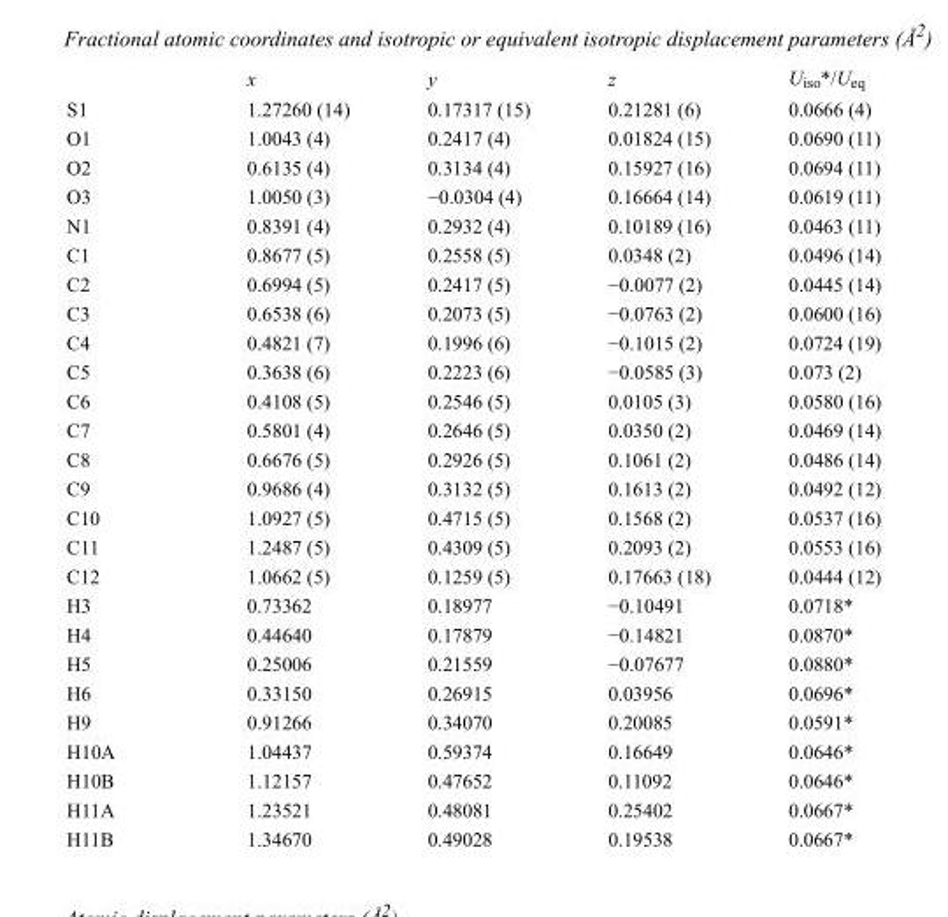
<table><thead><tr><td></td><td>x</td><td>y</td><td>z</td><td>U<sub>iso</sub>*/U<sub>eq</sub></td></tr></thead><tbody><tr><td>S1</td><td>1.27260 (14)</td><td>0.17317 (15)</td><td>0.21281 (6)</td><td>0.0666 (4)</td></tr><tr><td>O1</td><td>1.0043 (4)</td><td>0.2417 (4)</td><td>0.01824 (15)</td><td>0.0690 (11)</td></tr><tr><td>O2</td><td>0.6135 (4)</td><td>0.3134 (4)</td><td>0.15927 (16)</td><td>0.0694 (11)</td></tr><tr><td>O3</td><td>1.0050 (3)</td><td>−0.0304 (4)</td><td>0.16664 (14)</td><td>0.0619 (11)</td></tr><tr><td>N1</td><td>0.8391 (4)</td><td>0.2932 (4)</td><td>0.10189 (16)</td><td>0.0463 (11)</td></tr><tr><td>C1</td><td>0.8677 (5)</td><td>0.2558 (5)</td><td>0.0348 (2)</td><td>0.0496 (14)</td></tr><tr><td>C2</td><td>0.6994 (5)</td><td>0.2417 (5)</td><td>−0.0077 (2)</td><td>0.0445 (14)</td></tr><tr><td>C3</td><td>0.6538 (6)</td><td>0.2073 (5)</td><td>−0.0763 (2)</td><td>0.0600 (16)</td></tr><tr><td>C4</td><td>0.4821 (7)</td><td>0.1996 (6)</td><td>−0.1015 (2)</td><td>0.0724 (19)</td></tr><tr><td>C5</td><td>0.3638 (6)</td><td>0.2223 (6)</td><td>−0.0585 (3)</td><td>0.073 (2)</td></tr><tr><td>C6</td><td>0.4108 (5)</td><td>0.2546 (5)</td><td>0.0105 (3)</td><td>0.0580 (16)</td></tr><tr><td>C7</td><td>0.5801 (4)</td><td>0.2646 (5)</td><td>0.0350 (2)</td><td>0.0469 (14)</td></tr><tr><td>C8</td><td>0.6676 (5)</td><td>0.2926 (5)</td><td>0.1061 (2)</td><td>0.0486 (14)</td></tr><tr><td>C9</td><td>0.9686 (4)</td><td>0.3132 (5)</td><td>0.1613 (2)</td><td>0.0492 (12)</td></tr><tr><td>C10</td><td>1.0927 (5)</td><td>0.4715 (5)</td><td>0.1568 (2)</td><td>0.0537 (16)</td></tr><tr><td>C11</td><td>1.2487 (5)</td><td>0.4309 (5)</td><td>0.2093 (2)</td><td>0.0553 (16)</td></tr><tr><td>C12</td><td>1.0662 (5)</td><td>0.1259 (5)</td><td>0.17663 (18)</td><td>0.0444 (12)</td></tr><tr><td>H3</td><td>0.73362</td><td>0.18977</td><td>−0.10491</td><td>0.0718*</td></tr><tr><td>H4</td><td>0.44640</td><td>0.17879</td><td>−0.14821</td><td>0.0870*</td></tr><tr><td>H5</td><td>0.25006</td><td>0.21559</td><td>−0.07677</td><td>0.0880*</td></tr><tr><td>H6</td><td>0.33150</td><td>0.26915</td><td>0.03956</td><td>0.0696*</td></tr><tr><td>H9</td><td>0.91266</td><td>0.34070</td><td>0.20085</td><td>0.0591*</td></tr><tr><td>H10A</td><td>1.04437</td><td>0.59374</td><td>0.16649</td><td>0.0646*</td></tr><tr><td>H10B</td><td>1.12157</td><td>0.47652</td><td>0.11092</td><td>0.0646*</td></tr><tr><td>H11A</td><td>1.23521</td><td>0.48081</td><td>0.25402</td><td>0.0667*</td></tr><tr><td>H11B</td><td>1.34670</td><td>0.49028</td><td>0.19538</td><td>0.0667*</td></tr></tbody></table>